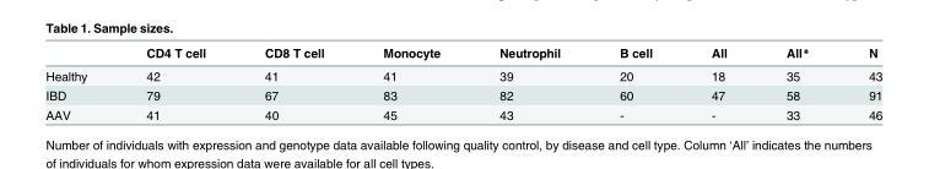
<table><thead><tr><td></td><td>CD4 T cell</td><td>CD8 T cell</td><td>Monocyte</td><td>Neutrophil</td><td>B cell</td><td>All</td><td>All*</td><td>N</td></tr></thead><tbody><tr><td>Healthy</td><td>42</td><td>41</td><td>41</td><td>39</td><td>20</td><td>18</td><td>35</td><td>43</td></tr><tr><td>IBD</td><td>79</td><td>67</td><td>83</td><td>82</td><td>60</td><td>47</td><td>58</td><td>91</td></tr><tr><td>AAV</td><td>41</td><td>40</td><td>45</td><td>43</td><td>-</td><td>-</td><td>33</td><td>46</td></tr></tbody></table>